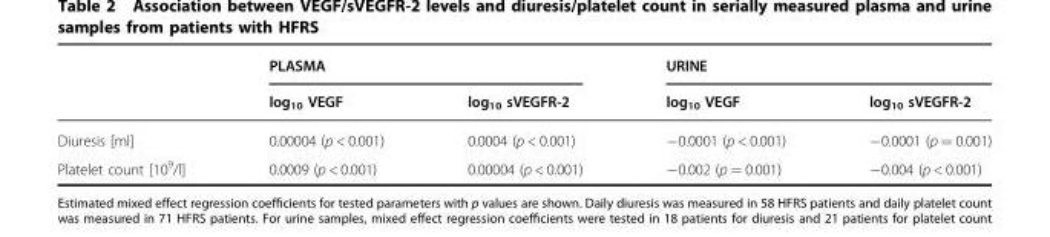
<table><thead><tr><td rowspan="2"></td><td colspan="2">PLASMA</td><td colspan="2">URINE</td></tr><tr><td>log<sub>10</sub> VEGF</td><td>log<sub>10</sub> sVEGFR-2</td><td>log<sub>10</sub> VEGF</td><td>log<sub>10</sub> sVEGFR-2</td></tr></thead><tbody><tr><td>Diuresis [ml]</td><td>0.00004 (p &lt; 0.001)</td><td>0.0004 (p &lt; 0.001)</td><td>−0.0001 (p &lt; 0.001)</td><td>−0.0001 (p = 0.001)</td></tr><tr><td>Platelet count [10<sup>9</sup>/l]</td><td>0.0009 (p &lt; 0.001)</td><td>0.00004 (p &lt; 0.001)</td><td>−0.002 (p = 0.001)</td><td>−0.004 (p &lt; 0.001)</td></tr></tbody></table>